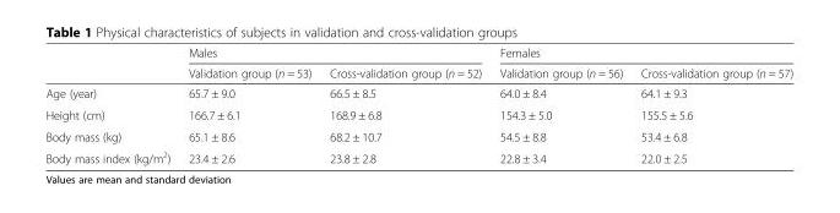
<table><thead><tr><td rowspan="2"></td><td colspan="2">Males</td><td colspan="2">Females</td></tr><tr><td>Validation group (n = 53)</td><td>Cross-validation group (n = 52)</td><td>Validation group (n = 56)</td><td>Cross-validation group (n = 57)</td></tr></thead><tbody><tr><td>Age (year)</td><td>65.7 ± 9.0</td><td>66.5 ± 8.5</td><td>64.0 ± 8.4</td><td>64.1 ± 9.3</td></tr><tr><td>Height (cm)</td><td>166.7 ± 6.1</td><td>168.9 ± 6.8</td><td>154.3 ± 5.0</td><td>155.5 ± 5.6</td></tr><tr><td>Body mass (kg)</td><td>65.1 ± 8.6</td><td>68.2 ± 10.7</td><td>54.5 ± 8.8</td><td>53.4 ± 6.8</td></tr><tr><td>Body mass index (kg/m<sup>2</sup>)</td><td>23.4 ± 2.6</td><td>23.8 ± 2.8</td><td>22.8 ± 3.4</td><td>22.0 ± 2.5</td></tr></tbody></table>